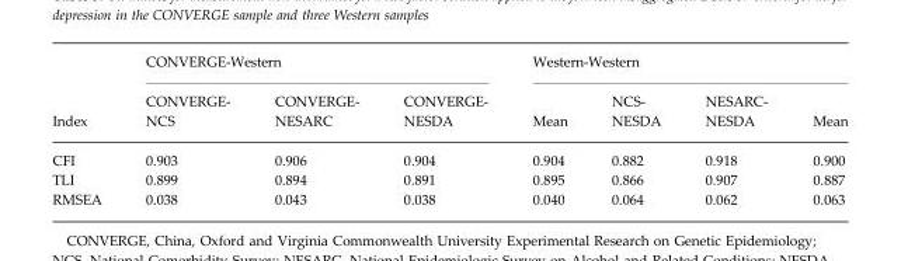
<table><thead><tr><td rowspan="2">Index</td><td colspan="3">CONVERGE-Western</td><td colspan="4">Western-Western</td></tr><tr><td>CONVERGE- NCS</td><td>CONVERGE- NESARC</td><td>CONVERGE- NESDA</td><td>Mean</td><td>NCS- NESDA</td><td>NESARC- NESDA</td><td>Mean</td></tr></thead><tbody><tr><td>CFI</td><td>0.903</td><td>0.906</td><td>0.904</td><td>0.904</td><td>0.882</td><td>0.918</td><td>0.900</td></tr><tr><td>TLI</td><td>0.899</td><td>0.894</td><td>0.891</td><td>0.895</td><td>0.866</td><td>0.907</td><td>0.887</td></tr><tr><td>RMSEA</td><td>0.038</td><td>0.043</td><td>0.038</td><td>0.040</td><td>0.064</td><td>0.062</td><td>0.063</td></tr></tbody></table>